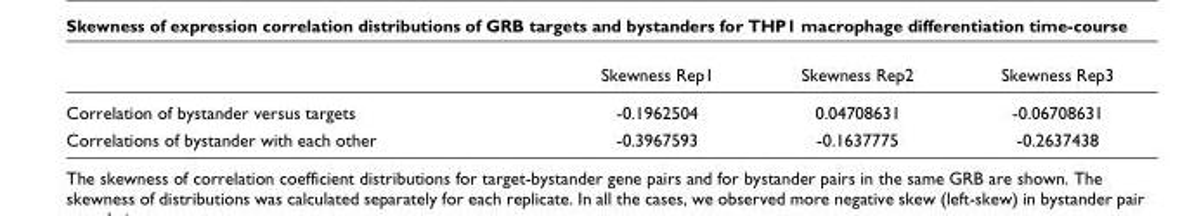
<table><thead><tr><td></td><td>Skewness Rep1</td><td>Skewness Rep2</td><td>Skewness Rep3</td></tr></thead><tbody><tr><td>Correlation of bystander versus targets</td><td>-0.1962504</td><td>0.04708631</td><td>-0.06708631</td></tr><tr><td>Correlations of bystander with each other</td><td>-0.3967593</td><td>-0.1637775</td><td>-0.2637438</td></tr></tbody></table>